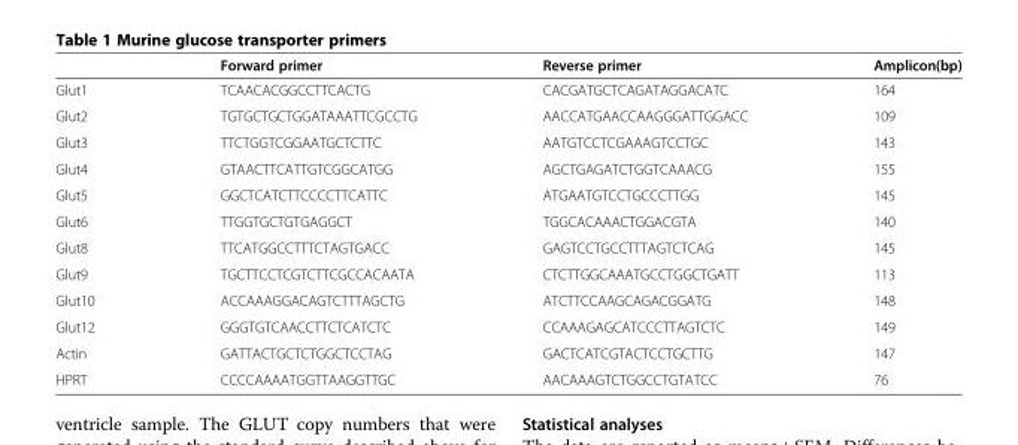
<table><thead><tr><td></td><td>Forward primer</td><td>Reverse primer</td><td>Amplicon(bp)</td></tr></thead><tbody><tr><td>Glut1</td><td>TCAACACGGCCTTCACTG</td><td>CACGATGCTCAGATAGGACATC</td><td>164</td></tr><tr><td>Glut2</td><td>TGTGCTGCTGGATAAATTCGCCTG</td><td>AACCATGAACCAAGGGATTGGACC</td><td>109</td></tr><tr><td>Glut3</td><td>TTCTGGTCGGAATGCTCTTC</td><td>AATGTCCTCGAAAGTCCTGC</td><td>143</td></tr><tr><td>Glut4</td><td>GTAACTTCATTGTCGGCATGG</td><td>AGCTGAGATCTGGTCAAACG</td><td>155</td></tr><tr><td>Glut5</td><td>GGCTCATCTTCCCCTTCATTC</td><td>ATGAATGTCCTGCCCTTGG</td><td>145</td></tr><tr><td>Glut6</td><td>TTGGTGCTGTGAGGCT</td><td>TGGCACAAACTGGACGTA</td><td>140</td></tr><tr><td>Glut8</td><td>TTCATGGCCTTTCTAGTGACC</td><td>GAGTCCTGCCTTTAGTCTCAG</td><td>145</td></tr><tr><td>Glut9</td><td>TGCTTCCTCGTCTTCGCCACAATA</td><td>CTCTTGGCAAATGCCTGGCTGATT</td><td>113</td></tr><tr><td>Glut10</td><td>ACCAAAGGACAGTCTTTAGCTG</td><td>ATCTTCCAAGCAGACGGATG</td><td>148</td></tr><tr><td>Glut12</td><td>GGGTGTCAACCTTCTCATCTC</td><td>CCAAAGAGCATCCCTTAGTCTC</td><td>149</td></tr><tr><td>Actin</td><td>GATTACTGCTCTGGCTCCTAG</td><td>GACTCATCGTACTCCTGCTTG</td><td>147</td></tr><tr><td>HPRT</td><td>CCCCAAAATGGTTAAGGTTGC</td><td>AACAAAGTCTGGCCTGTATCC</td><td>76</td></tr></tbody></table>